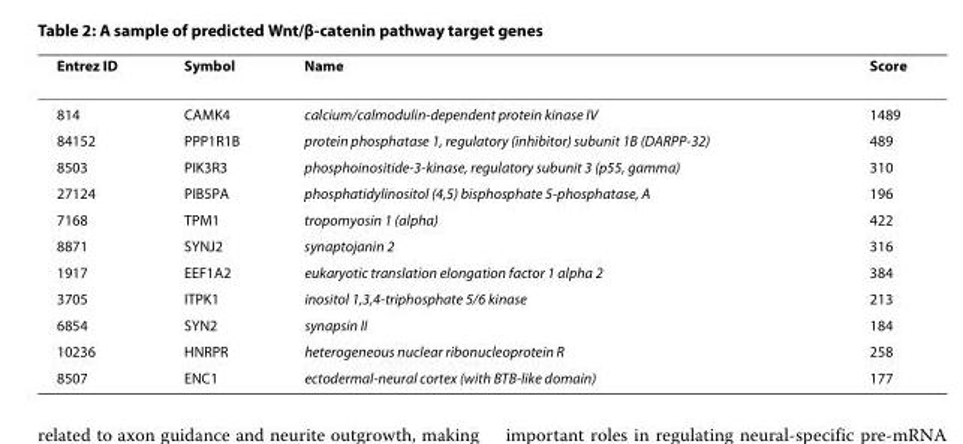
<table><thead><tr><td>Entrez ID</td><td>Symbol</td><td>Name</td><td>Score</td></tr></thead><tbody><tr><td>814</td><td>CAMK4</td><td>calcium/calmodulin-dependent protein kinase IV</td><td>1489</td></tr><tr><td>84152</td><td>PPP1R1B</td><td>protein phosphatase 1, regulatory (inhibitor) subunit 1B (DARPP-32)</td><td>489</td></tr><tr><td>8503</td><td>PIK3R3</td><td>phosphoinositide-3-kinase, regulatory subunit 3 (p55, gamma)</td><td>310</td></tr><tr><td>27124</td><td>PIB5PA</td><td>phosphatidylinositol (4,5) bisphosphate 5-phosphatase, A</td><td>196</td></tr><tr><td>7168</td><td>TPM1</td><td>tropomyosin 1 (alpha)</td><td>422</td></tr><tr><td>8871</td><td>SYNJ2</td><td>synaptojanin 2</td><td>316</td></tr><tr><td>1917</td><td>EEF1A2</td><td>eukaryotic translation elongation factor 1 alpha 2</td><td>384</td></tr><tr><td>3705</td><td>ITPK1</td><td>inositol 1,3,4-triphosphate 5/6 kinase</td><td>213</td></tr><tr><td>6854</td><td>SYN2</td><td>synapsin II</td><td>184</td></tr><tr><td>10236</td><td>HNRPR</td><td>heterogeneous nuclear ribonucleoprotein R</td><td>258</td></tr><tr><td>8507</td><td>ENC1</td><td>ectodermal-neural cortex (with BTB-like domain)</td><td>177</td></tr></tbody></table>